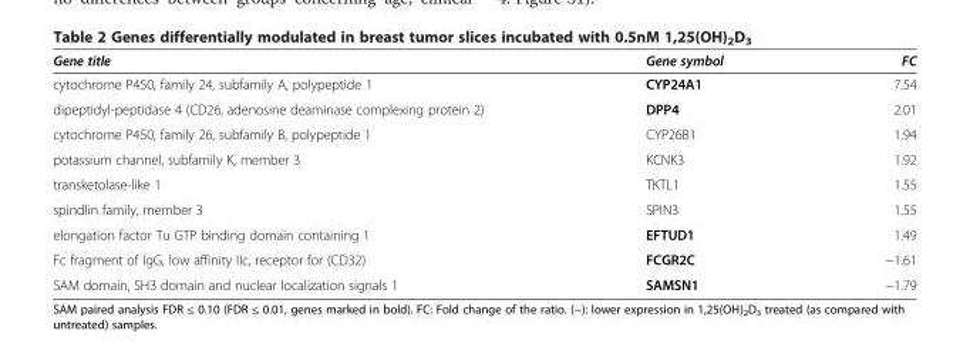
<table><thead><tr><td>Gene title</td><td>Gene symbol</td><td>FC</td></tr></thead><tbody><tr><td>cytochrome P450, family 24, subfamily A, polypeptide 1</td><td>CYP24A1</td><td>7.54</td></tr><tr><td>dipeptidyl-peptidase 4 (CD26, adenosine deaminase complexing protein 2)</td><td>DPP4</td><td>2.01</td></tr><tr><td>cytochrome P450, family 26, subfamily B, polypeptide 1</td><td>CYP26B1</td><td>1.94</td></tr><tr><td>potassium channel, subfamily K, member 3</td><td>KCNK3</td><td>1.92</td></tr><tr><td>transketolase-like 1</td><td>TKTL1</td><td>1.55</td></tr><tr><td>spindlin family, member 3</td><td>SPIN3</td><td>1.55</td></tr><tr><td>elongation factor Tu GTP binding domain containing 1</td><td>EFTUD1</td><td>1.49</td></tr><tr><td>Fc fragment of IgG, low affinity IIc, receptor for (CD32)</td><td>FCGR2C</td><td>−1.61</td></tr><tr><td>SAM domain, SH3 domain and nuclear localization signals 1</td><td>SAMSN1</td><td>−1.79</td></tr></tbody></table>